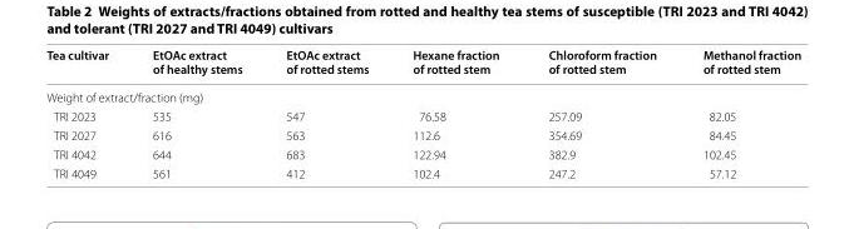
<table><thead><tr><td>Tea cultivar</td><td>EtOAc extract of healthy stems</td><td>EtOAc extract of rotted stems</td><td>Hexane fraction of rotted stem</td><td>Chloroform fraction of rotted stem</td><td>Methanol fraction of rotted stem</td></tr></thead><tbody><tr><td colspan="6">Weight of extract/fraction (mg)</td></tr><tr><td>TRI 2023</td><td>535</td><td>547</td><td>76.58</td><td>257.09</td><td>82.05</td></tr><tr><td>TRI 2027</td><td>616</td><td>563</td><td>112.6</td><td>354.69</td><td>84.45</td></tr><tr><td>TRI 4042</td><td>644</td><td>683</td><td>122.94</td><td>382.9</td><td>102.45</td></tr><tr><td>TRI 4049</td><td>561</td><td>412</td><td>102.4</td><td>247.2</td><td>57.12</td></tr></tbody></table>